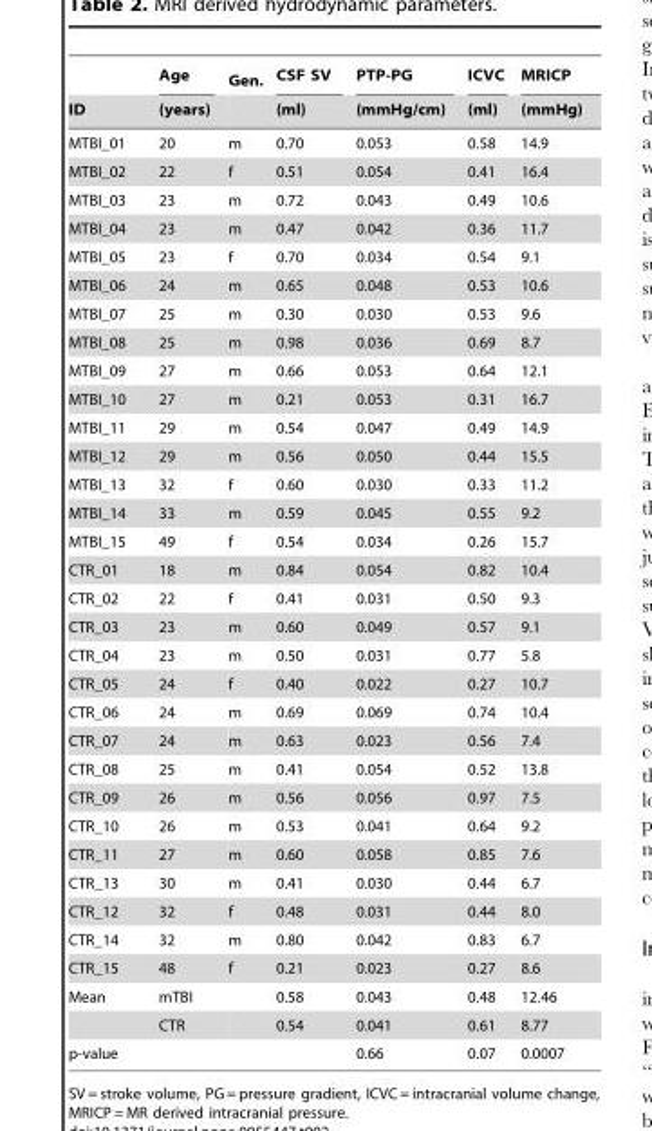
<table><thead><tr><td rowspan="2">ID</td><td rowspan="2">Age (years)</td><td rowspan="2">Gen.</td><td rowspan="2">CSF SV (ml)</td><td rowspan="2">PTP-PG (mmHg/cm)</td><td rowspan="2">ICVC (ml)</td><td rowspan="2">MRICP (mmHg)</td></tr><tr></tr></thead><tbody><tr><td>MTBI_01</td><td>20</td><td>m</td><td>0.70</td><td>0.053</td><td>0.58</td><td>14.9</td></tr><tr><td>MTBI_02</td><td>22</td><td>f</td><td>0.51</td><td>0.054</td><td>0.41</td><td>16.4</td></tr><tr><td>MTBI_03</td><td>23</td><td>m</td><td>0.72</td><td>0.043</td><td>0.49</td><td>10.6</td></tr><tr><td>MTBI_04</td><td>23</td><td>m</td><td>0.47</td><td>0.042</td><td>0.36</td><td>11.7</td></tr><tr><td>MTBI_05</td><td>23</td><td>f</td><td>0.70</td><td>0.034</td><td>0.54</td><td>9.1</td></tr><tr><td>MTBI_06</td><td>24</td><td>m</td><td>0.65</td><td>0.048</td><td>0.53</td><td>10.6</td></tr><tr><td>MTBI_07</td><td>25</td><td>m</td><td>0.30</td><td>0.030</td><td>0.53</td><td>9.6</td></tr><tr><td>MTBI_08</td><td>25</td><td>m</td><td>0.98</td><td>0.036</td><td>0.69</td><td>8.7</td></tr><tr><td>MTBI_09</td><td>27</td><td>m</td><td>0.66</td><td>0.053</td><td>0.64</td><td>12.1</td></tr><tr><td>MTBI_10</td><td>27</td><td>m</td><td>0.21</td><td>0.053</td><td>0.31</td><td>16.7</td></tr><tr><td>MTBI_11</td><td>29</td><td>m</td><td>0.54</td><td>0.047</td><td>0.49</td><td>14.9</td></tr><tr><td>MTBI_12</td><td>29</td><td>m</td><td>0.56</td><td>0.050</td><td>0.44</td><td>15.5</td></tr><tr><td>MTBI_13</td><td>32</td><td>f</td><td>0.60</td><td>0.030</td><td>0.33</td><td>11.2</td></tr><tr><td>MTBI_14</td><td>33</td><td>m</td><td>0.59</td><td>0.045</td><td>0.55</td><td>9.2</td></tr><tr><td>MTBI_15</td><td>49</td><td>f</td><td>0.54</td><td>0.034</td><td>0.26</td><td>15.7</td></tr><tr><td>CTR_01</td><td>18</td><td>m</td><td>0.84</td><td>0.054</td><td>0.82</td><td>10.4</td></tr><tr><td>CTR_02</td><td>22</td><td>f</td><td>0.41</td><td>0.031</td><td>0.50</td><td>9.3</td></tr><tr><td>CTR_03</td><td>23</td><td>m</td><td>0.60</td><td>0.049</td><td>0.57</td><td>9.1</td></tr><tr><td>CTR_04</td><td>23</td><td>m</td><td>0.50</td><td>0.031</td><td>0.77</td><td>5.8</td></tr><tr><td>CTR_05</td><td>24</td><td>f</td><td>0.40</td><td>0.022</td><td>0.27</td><td>10.7</td></tr><tr><td>CTR_06</td><td>24</td><td>m</td><td>0.69</td><td>0.069</td><td>0.74</td><td>10.4</td></tr><tr><td>CTR_07</td><td>24</td><td>m</td><td>0.63</td><td>0.023</td><td>0.56</td><td>7.4</td></tr><tr><td>CTR_08</td><td>25</td><td>m</td><td>0.41</td><td>0.054</td><td>0.52</td><td>13.8</td></tr><tr><td>CTR_09</td><td>26</td><td>m</td><td>0.56</td><td>0.056</td><td>0.97</td><td>7.5</td></tr><tr><td>CTR_10</td><td>26</td><td>m</td><td>0.53</td><td>0.041</td><td>0.64</td><td>9.2</td></tr><tr><td>CTR_11</td><td>27</td><td>m</td><td>0.60</td><td>0.058</td><td>0.85</td><td>7.6</td></tr><tr><td>CTR_13</td><td>30</td><td>m</td><td>0.41</td><td>0.030</td><td>0.44</td><td>6.7</td></tr><tr><td>CTR_12</td><td>32</td><td>f</td><td>0.48</td><td>0.031</td><td>0.44</td><td>8.0</td></tr><tr><td>CTR_14</td><td>32</td><td>m</td><td>0.80</td><td>0.042</td><td>0.83</td><td>6.7</td></tr><tr><td>CTR_15</td><td>48</td><td>f</td><td>0.21</td><td>0.023</td><td>0.27</td><td>8.6</td></tr><tr><td rowspan="2">Mean</td><td>mTBI</td><td></td><td>0.58</td><td>0.043</td><td>0.48</td><td>12.46</td></tr><tr><td>CTR</td><td></td><td>0.54</td><td>0.041</td><td>0.61</td><td>8.77</td></tr><tr><td>p-value</td><td></td><td></td><td></td><td>0.66</td><td>0.07</td><td>0.0007</td></tr></tbody></table>